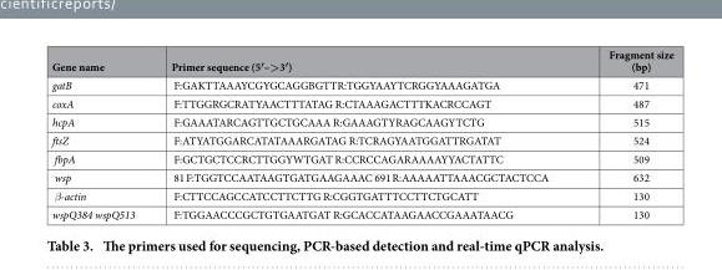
<table><thead><tr><td>Gene name</td><td>Primer sequence (5′–&gt;3′)</td><td>Fragment size (bp)</td></tr></thead><tbody><tr><td>gatB</td><td>F:GAKTTAAAYCGYGCAGGBGTTR:TGGYAAYTCRGGYAAAGATGA</td><td>471</td></tr><tr><td>coxA</td><td>F:TTGGRGCRATYAACTTTATAG R:CTAAAGACTTTKACRCCAGT</td><td>487</td></tr><tr><td>hcpA</td><td>F:GAAATARCAGTTGCTGCAAA R:GAAAGTYRAGCAAGYTCTG</td><td>515</td></tr><tr><td>ftsZ</td><td>F:ATYATGGARCATATAAARGATAG R:TCRAGYAATGGATTRGATAT</td><td>524</td></tr><tr><td>fbpA</td><td>F:GCTGCTCCRCTTGGYWTGAT R:CCRCCAGARAAAAYYACTATTC</td><td>509</td></tr><tr><td>wsp</td><td>81 F:TGGTCCAATAAGTGATGAAGAAAC 691 R:AAAAATTAAACGCTACTCCA</td><td>632</td></tr><tr><td>β -actin</td><td>F:CTTCCAGCCATCCTTCTTG R:CGGTGATTTCCTTCTGCATT</td><td>130</td></tr><tr><td>wspQ384 wspQ513</td><td>F:TGGAACCCGCTGTGAATGAT R:GCACCATAAGAACCGAAATAACG</td><td>130</td></tr></tbody></table>